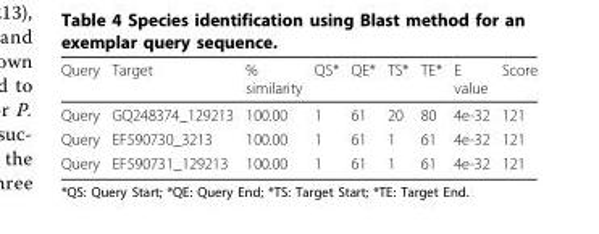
<table><thead><tr><td>Query</td><td>Target</td><td>% similarity</td><td>QS*</td><td>QE*</td><td>TS*</td><td>TE*</td><td>E value</td><td>Score</td></tr></thead><tbody><tr><td>Query</td><td>GQ248374_129213</td><td>100.00</td><td>1</td><td>61</td><td>20</td><td>80</td><td>4e-32</td><td>121</td></tr><tr><td>Query</td><td>EF590730_3213</td><td>100.00</td><td>1</td><td>61</td><td>1</td><td>61</td><td>4e-32</td><td>121</td></tr><tr><td>Query</td><td>EF590731_129213</td><td>100.00</td><td>1</td><td>61</td><td>1</td><td>61</td><td>4e-32</td><td>121</td></tr></tbody></table>